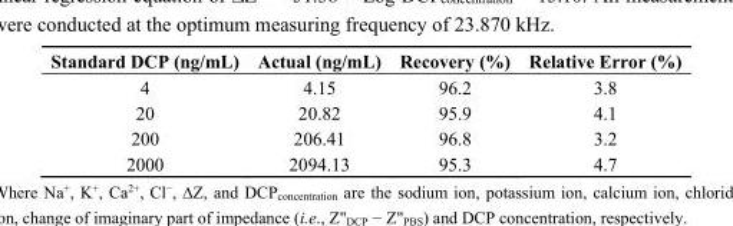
<table><thead><tr><td>Standard DCP (ng/mL)</td><td>Actual (ng/mL)</td><td>Recovery (%)</td><td>Relative Error (%)</td></tr></thead><tbody><tr><td>4</td><td>4.15</td><td>96.2</td><td>3.8</td></tr><tr><td>20</td><td>20.82</td><td>95.9</td><td>4.1</td></tr><tr><td>200</td><td>206.41</td><td>96.8</td><td>3.2</td></tr><tr><td>2000</td><td>2094.13</td><td>95.3</td><td>4.7</td></tr></tbody></table>